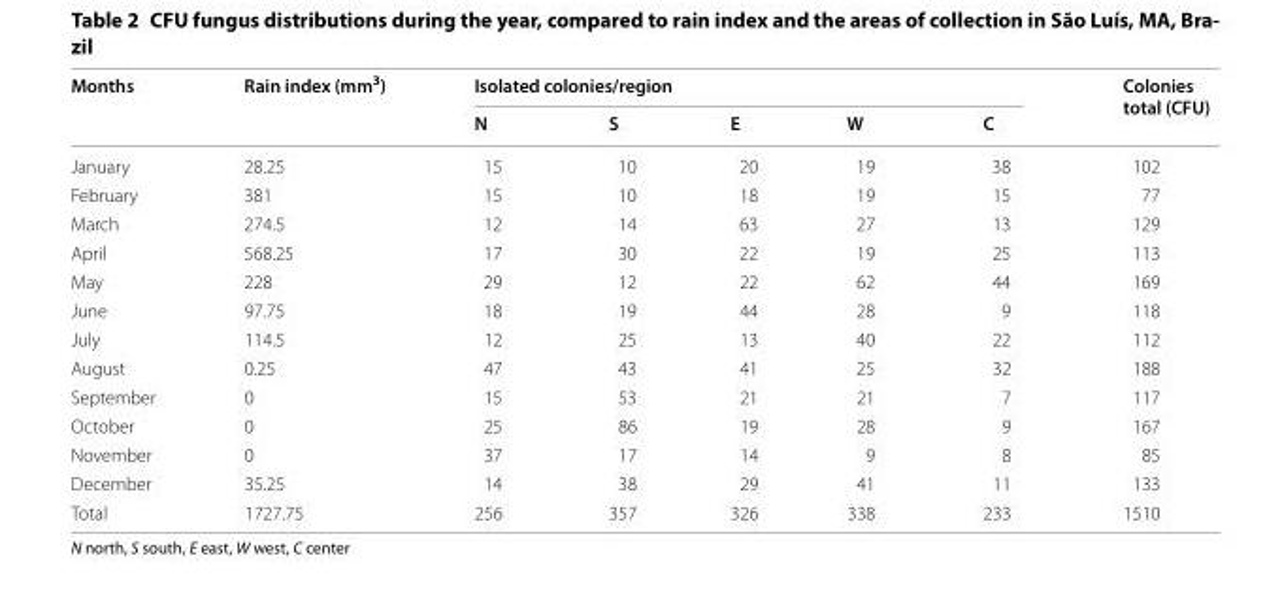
<table><thead><tr><td rowspan="2">Months</td><td rowspan="2">Rain index (mm<sup>3</sup>)</td><td colspan="5">Isolated colonies/region</td><td rowspan="2">Colonies total (CFU)</td></tr><tr><td>N</td><td>S</td><td>E</td><td>W</td><td>C</td></tr></thead><tbody><tr><td>January</td><td>28.25</td><td>15</td><td>10</td><td>20</td><td>19</td><td>38</td><td>102</td></tr><tr><td>February</td><td>381</td><td>15</td><td>10</td><td>18</td><td>19</td><td>15</td><td>77</td></tr><tr><td>March</td><td>274.5</td><td>12</td><td>14</td><td>63</td><td>27</td><td>13</td><td>129</td></tr><tr><td>April</td><td>568.25</td><td>17</td><td>30</td><td>22</td><td>19</td><td>25</td><td>113</td></tr><tr><td>May</td><td>228</td><td>29</td><td>12</td><td>22</td><td>62</td><td>44</td><td>169</td></tr><tr><td>June</td><td>97.75</td><td>18</td><td>19</td><td>44</td><td>28</td><td>9</td><td>118</td></tr><tr><td>July</td><td>114.5</td><td>12</td><td>25</td><td>13</td><td>40</td><td>22</td><td>112</td></tr><tr><td>August</td><td>0.25</td><td>47</td><td>43</td><td>41</td><td>25</td><td>32</td><td>188</td></tr><tr><td>September</td><td>0</td><td>15</td><td>53</td><td>21</td><td>21</td><td>7</td><td>117</td></tr><tr><td>October</td><td>0</td><td>25</td><td>86</td><td>19</td><td>28</td><td>9</td><td>167</td></tr><tr><td>November</td><td>0</td><td>37</td><td>17</td><td>14</td><td>9</td><td>8</td><td>85</td></tr><tr><td>December</td><td>35.25</td><td>14</td><td>38</td><td>29</td><td>41</td><td>11</td><td>133</td></tr><tr><td>Total</td><td>1727.75</td><td>256</td><td>357</td><td>326</td><td>338</td><td>233</td><td>1510</td></tr></tbody></table>